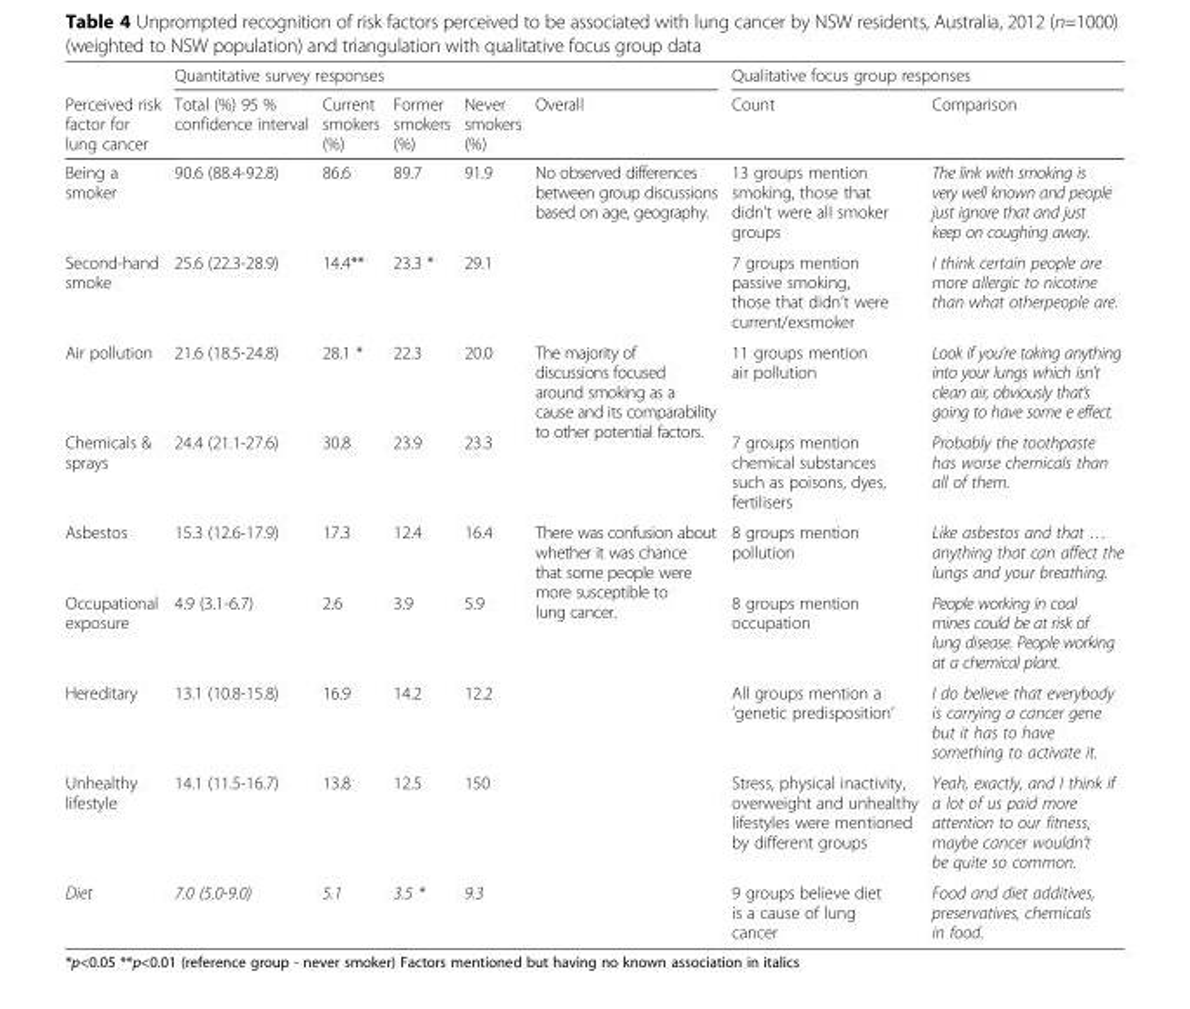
<table><thead><tr><td rowspan="2">Perceived risk factor for lung cancer</td><td colspan="5">Quantitative survey responses</td><td colspan="2">Qualitative focus group responses</td></tr><tr><td>Total (%) 95 % confidence interval</td><td>Current smokers (%)</td><td>Former smokers (%)</td><td>Never smokers (%)</td><td>Overall</td><td>Count</td><td>Comparison</td></tr></thead><tbody><tr><td>Being a smoker</td><td>90.6 (88.4-92.8)</td><td>86.6</td><td>89.7</td><td>91.9</td><td rowspan="2">No observed differences between group discussions based on age, geography.</td><td>13 groups mention smoking, those that didn’t were all smoker groups</td><td>The link with smoking is very well known and people just ignore that and just keep on coughing away.</td></tr><tr><td>Second-hand smoke</td><td>25.6 (22.3-28.9)</td><td>14.4**</td><td>23.3 *</td><td>29.1</td><td>7 groups mention passive smoking, those that didn’t were current/exsmoker</td><td>I think certain people are more allergic to nicotine than what otherpeople are.</td></tr><tr><td>Air pollution</td><td>21.6 (18.5-24.8)</td><td>28.1 *</td><td>22.3</td><td>20.0</td><td rowspan="2">The majority of discussions focused around smoking as a cause and its comparability to other potential factors.</td><td>11 groups mention air pollution</td><td>Look if you’re taking anything into your lungs which isn’t clean air, obviously that’s going to have some e effect.</td></tr><tr><td>Chemicals &amp; sprays</td><td>24.4 (21.1-27.6)</td><td>30.8</td><td>23.9</td><td>23.3</td><td>7 groups mention chemical substances such as poisons, dyes, fertilisers</td><td>Probably the toothpaste has worse chemicals than all of them.</td></tr><tr><td>Asbestos</td><td>15.3 (12.6-17.9)</td><td>17.3</td><td>12.4</td><td>16.4</td><td rowspan="3">There was confusion about whether it was chance that some people were more susceptible to lung cancer.</td><td>8 groups mention pollution</td><td>Like asbestos and that … anything that can affect the lungs and your breathing.</td></tr><tr><td>Occupational exposure</td><td>4.9 (3.1-6.7)</td><td>2.6</td><td>3.9</td><td>5.9</td><td>8 groups mention occupation</td><td>People working in coal mines could be at risk of lung disease. People working at a chemical plant.</td></tr><tr><td>Hereditary</td><td>13.1 (10.8-15.8)</td><td>16.9</td><td>14.2</td><td>12.2</td><td>All groups mention a ‘genetic predisposition’</td><td>I do believe that everybody is carrying a cancer gene but it has to have something to activate it.</td></tr><tr><td>Unhealthy lifestyle</td><td>14.1 (11.5-16.7)</td><td>13.8</td><td>12.5</td><td>150</td><td></td><td>Stress, physical inactivity, overweight and unhealthy lifestyles were mentioned by different groups</td><td>Yeah, exactly, and I think if a lot of us paid more attention to our fitness, maybe cancer wouldn’t be quite so common.</td></tr><tr><td>Diet</td><td>7.0 (5.0-9.0)</td><td>5.1</td><td>3.5 *</td><td>9.3</td><td></td><td>9 groups believe diet is a cause of lung cancer</td><td>Food and diet additives, preservatives, chemicals in food.</td></tr></tbody></table>